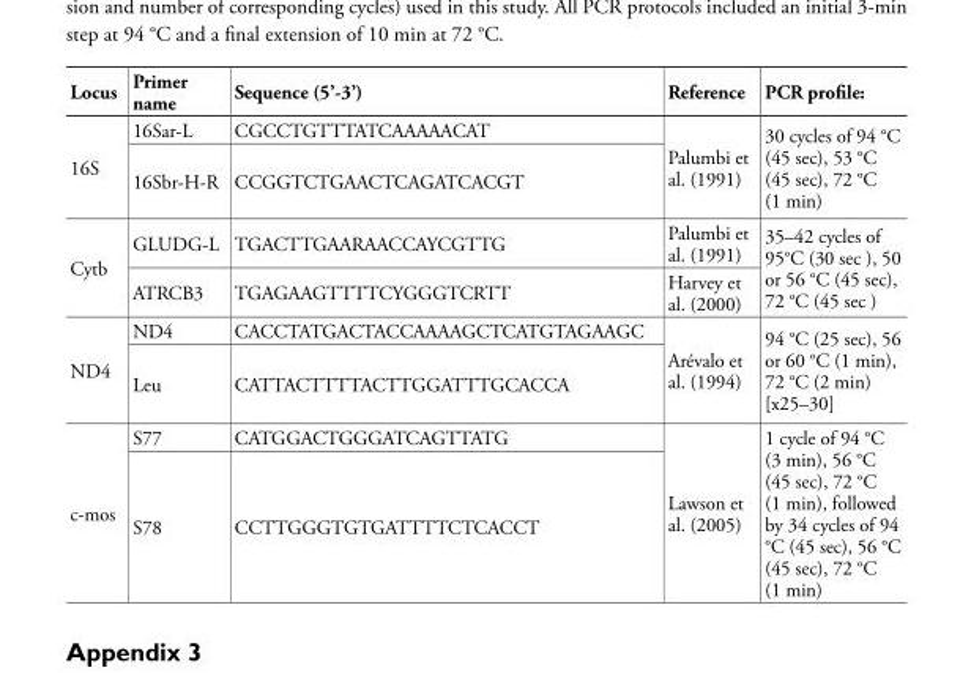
<table><thead><tr><td>Locus</td><td>Primer name</td><td>Sequence (5’-3’)</td><td>Reference</td><td>PCR profile:</td></tr></thead><tbody><tr><td rowspan="2">16S</td><td>16Sar-L</td><td>CGCCTGTTTATCAAAAACAT</td><td rowspan="2">Palumbi et al. (1991)</td><td rowspan="2">30 cycles of 94 °C (45 sec), 53 °C (45 sec), 72 °C (1 min)</td></tr><tr><td>16Sbr-H-R</td><td>CCGGTCTGAACTCAGATCACGT</td></tr><tr><td rowspan="2">Cytb</td><td>GLUDG-L</td><td>TGACTTGAARAACCAYCGTTG</td><td>Palumbi et al. (1991)</td><td rowspan="2">35–42 cycles of 95°C (30 sec ), 50 or 56 °C (45 sec), 72 °C (45 sec )</td></tr><tr><td>ATRCB3</td><td>TGAGAAGTTTTCYGGGTCRTT</td><td>Harvey et al. (2000)</td></tr><tr><td rowspan="2">ND4</td><td>ND4</td><td>CACCTATGACTACCAAAAGCTCATGTAGAAGC</td><td rowspan="2">Arévalo et al. (1994)</td><td rowspan="2">94 °C (25 sec), 56 or 60 °C (1 min), 72 °C (2 min) [x25–30]</td></tr><tr><td>Leu</td><td>CATTACTTTTACTTGGATTTGCACCA</td></tr><tr><td rowspan="2">c-mos</td><td>S77</td><td>CATGGACTGGGATCAGTTATG</td><td rowspan="2">Lawson et al. (2005)</td><td rowspan="2">1 cycle of 94 °C (3 min), 56 °C (45 sec), 72 °C (1 min), followed by 34 cycles of 94 °C (45 sec), 56 °C (45 sec), 72 °C (1 min)</td></tr><tr><td>S78</td><td>CCTTGGGTGTGATTTTCTCACCT</td></tr></tbody></table>